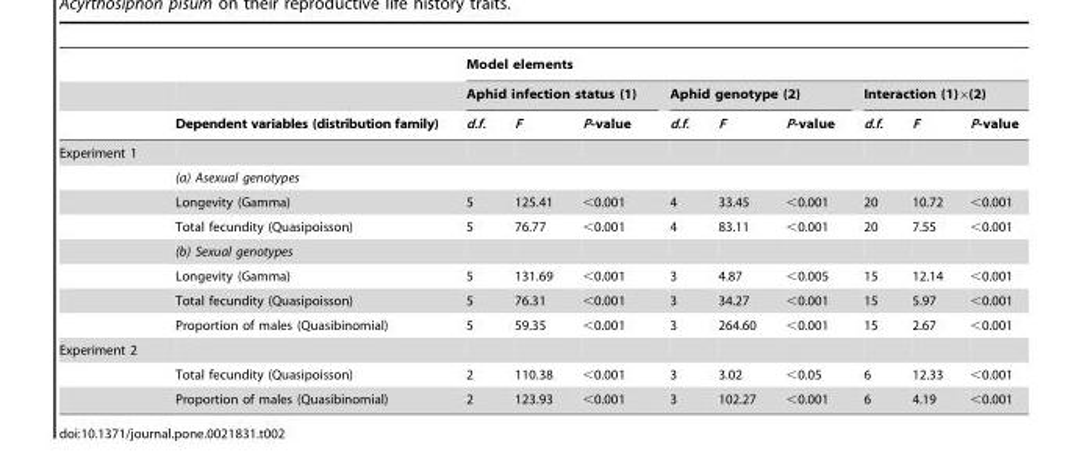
<table><thead><tr><td rowspan="3"></td><td rowspan="3">Dependent variables (distribution family)</td><td colspan="9">Model elements</td></tr><tr><td colspan="3">Aphid infection status (1)</td><td colspan="3">Aphid genotype (2)</td><td colspan="3">Interaction (1)×(2)</td></tr><tr><td>d.f.</td><td>F</td><td>P-value</td><td>d.f.</td><td>F</td><td>P-value</td><td>d.f.</td><td>F</td><td>P-value</td></tr></thead><tbody><tr><td colspan="11">Experiment 1</td></tr><tr><td></td><td>(a) Asexual genotypes</td><td></td><td></td><td></td><td></td><td></td><td></td><td></td><td></td><td></td></tr><tr><td></td><td>Longevity (Gamma)</td><td>5</td><td>125.41</td><td>&lt;0.001</td><td>4</td><td>33.45</td><td>&lt;0.001</td><td>20</td><td>10.72</td><td>&lt;0.001</td></tr><tr><td></td><td>Total fecundity (Quasipoisson)</td><td>5</td><td>76.77</td><td>&lt;0.001</td><td>4</td><td>83.11</td><td>&lt;0.001</td><td>20</td><td>7.55</td><td>&lt;0.001</td></tr><tr><td></td><td>(b) Sexual genotypes</td><td></td><td></td><td></td><td></td><td></td><td></td><td></td><td></td><td></td></tr><tr><td></td><td>Longevity (Gamma)</td><td>5</td><td>131.69</td><td>&lt;0.001</td><td>3</td><td>4.87</td><td>&lt;0.005</td><td>15</td><td>12.14</td><td>&lt;0.001</td></tr><tr><td></td><td>Total fecundity (Quasipoisson)</td><td>5</td><td>76.31</td><td>&lt;0.001</td><td>3</td><td>34.27</td><td>&lt;0.001</td><td>15</td><td>5.97</td><td>&lt;0.001</td></tr><tr><td></td><td>Proportion of males (Quasibinomial)</td><td>5</td><td>59.35</td><td>&lt;0.001</td><td>3</td><td>264.60</td><td>&lt;0.001</td><td>15</td><td>2.67</td><td>&lt;0.001</td></tr><tr><td colspan="11">Experiment 2</td></tr><tr><td></td><td>Total fecundity (Quasipoisson)</td><td>2</td><td>110.38</td><td>&lt;0.001</td><td>3</td><td>3.02</td><td>&lt;0.05</td><td>6</td><td>12.33</td><td>&lt;0.001</td></tr><tr><td></td><td>Proportion of males (Quasibinomial)</td><td>2</td><td>123.93</td><td>&lt;0.001</td><td>3</td><td>102.27</td><td>&lt;0.001</td><td>6</td><td>4.19</td><td>&lt;0.001</td></tr></tbody></table>